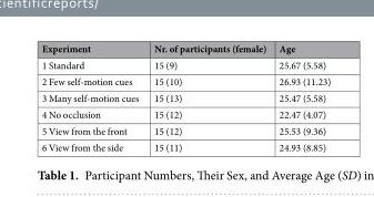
<table><thead><tr><td>Experiment</td><td>Nr. of participants (female)</td><td>Age</td></tr></thead><tbody><tr><td>1 Standard</td><td>15 (9)</td><td>25.67 (5.58)</td></tr><tr><td>2 Few self-motion cues</td><td>15 (10)</td><td>26.93 (11.23)</td></tr><tr><td>3 Many self-motion cues</td><td>15 (13)</td><td>25.47 (5.58)</td></tr><tr><td>4 No occlusion</td><td>15 (12)</td><td>22.47 (4.07)</td></tr><tr><td>5 View from the front</td><td>15 (12)</td><td>25.53 (9.36)</td></tr><tr><td>6 View from the side</td><td>15 (11)</td><td>24.93 (8.85)</td></tr></tbody></table>